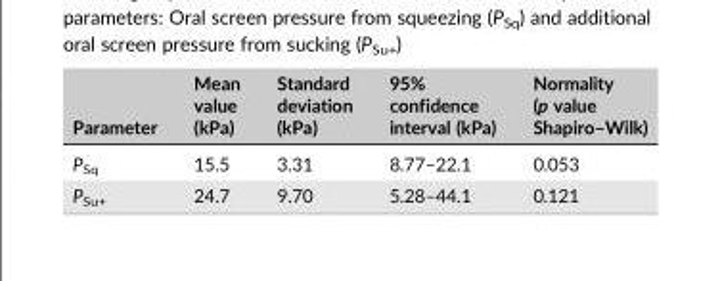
<table><thead><tr><td>Parameter</td><td>Mean value (kPa)</td><td>Standard deviation (kPa)</td><td>95% confidence interval (kPa)</td><td>Normality (p value Shapiro–Wilk)</td></tr></thead><tbody><tr><td>P<sub>Sq</sub></td><td>15.5</td><td>3.31</td><td>8.77–22.1</td><td>0.053</td></tr><tr><td>P<sub>Su+</sub></td><td>24.7</td><td>9.70</td><td>5.28–44.1</td><td>0.121</td></tr></tbody></table>